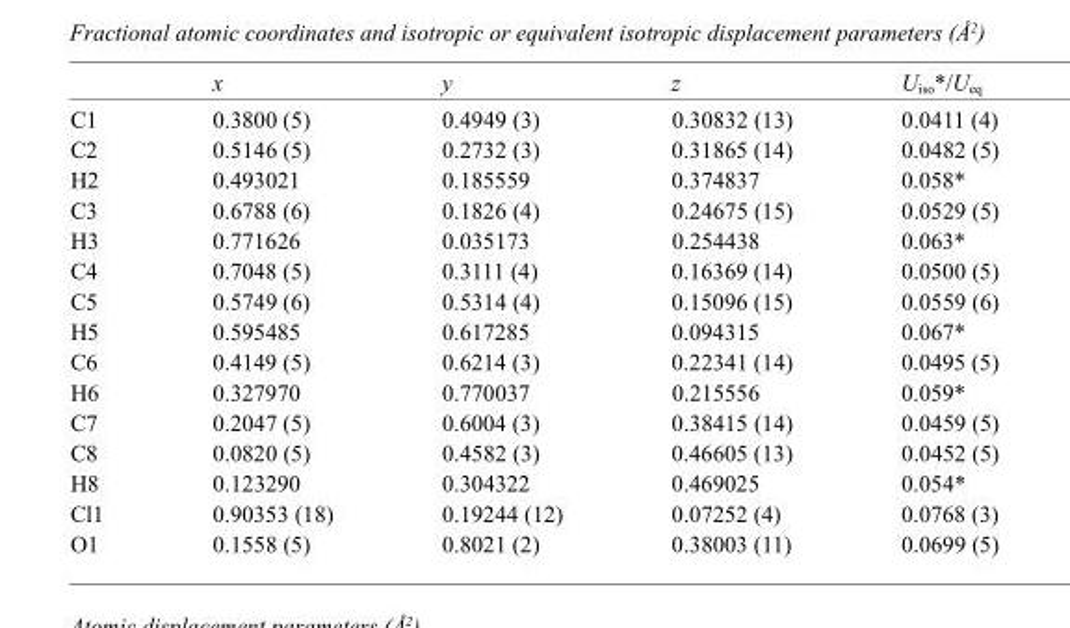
<table><thead><tr><td></td><td>x</td><td>y</td><td>z</td><td>U<sub>iso</sub>*/U<sub>eq</sub></td></tr></thead><tbody><tr><td>C1</td><td>0.3800 (5)</td><td>0.4949 (3)</td><td>0.30832 (13)</td><td>0.0411 (4)</td></tr><tr><td>C2</td><td>0.5146 (5)</td><td>0.2732 (3)</td><td>0.31865 (14)</td><td>0.0482 (5)</td></tr><tr><td>H2</td><td>0.493021</td><td>0.185559</td><td>0.374837</td><td>0.058*</td></tr><tr><td>C3</td><td>0.6788 (6)</td><td>0.1826 (4)</td><td>0.24675 (15)</td><td>0.0529 (5)</td></tr><tr><td>H3</td><td>0.771626</td><td>0.035173</td><td>0.254438</td><td>0.063*</td></tr><tr><td>C4</td><td>0.7048 (5)</td><td>0.3111 (4)</td><td>0.16369 (14)</td><td>0.0500 (5)</td></tr><tr><td>C5</td><td>0.5749 (6)</td><td>0.5314 (4)</td><td>0.15096 (15)</td><td>0.0559 (6)</td></tr><tr><td>H5</td><td>0.595485</td><td>0.617285</td><td>0.094315</td><td>0.067*</td></tr><tr><td>C6</td><td>0.4149 (5)</td><td>0.6214 (3)</td><td>0.22341 (14)</td><td>0.0495 (5)</td></tr><tr><td>H6</td><td>0.327970</td><td>0.770037</td><td>0.215556</td><td>0.059*</td></tr><tr><td>C7</td><td>0.2047 (5)</td><td>0.6004 (3)</td><td>0.38415 (14)</td><td>0.0459 (5)</td></tr><tr><td>C8</td><td>0.0820 (5)</td><td>0.4582 (3)</td><td>0.46605 (13)</td><td>0.0452 (5)</td></tr><tr><td>H8</td><td>0.123290</td><td>0.304322</td><td>0.469025</td><td>0.054*</td></tr><tr><td>Cl1</td><td>0.90353 (18)</td><td>0.19244 (12)</td><td>0.07252 (4)</td><td>0.0768 (3)</td></tr><tr><td>O1</td><td>0.1558 (5)</td><td>0.8021 (2)</td><td>0.38003 (11)</td><td>0.0699 (5)</td></tr></tbody></table>